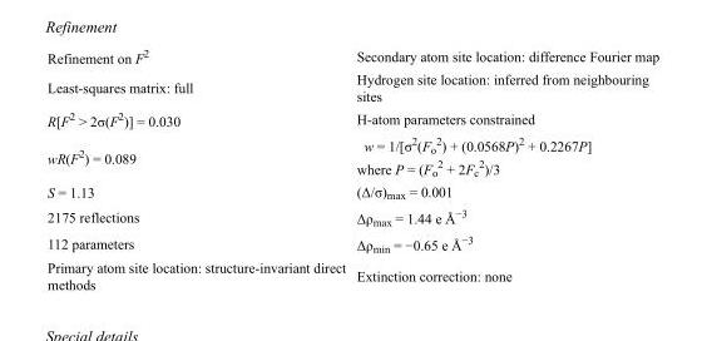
<table><tbody><tr><td>Refinement on F<sup>2</sup></td><td>Secondary atom site location: difference Fourier map</td></tr><tr><td>Least-squares matrix: full</td><td>Hydrogen site location: inferred from neighbouring sites</td></tr><tr><td>R[F<sup>2</sup> &gt; 2σ(F<sup>2</sup>)] = 0.030</td><td>H-atom parameters constrained</td></tr><tr><td>wR(F<sup>2</sup>) = 0.089</td><td>w = 1/[σ<sup>2</sup>(F<sub>o</sub> <sup>2</sup>) + (0.0568P)<sup>2</sup> + 0.2267P] where P = (F<sub>o</sub> <sup>2</sup> + 2F<sub>c</sub> <sup>2</sup>)/3</td></tr><tr><td>S = 1.13</td><td>(Δ/σ)<sub>max</sub> = 0.001</td></tr><tr><td>2175 reflections</td><td>Δρ<sub>max</sub> = 1.44 e Å<sup>−3</sup></td></tr><tr><td>112 parameters</td><td>Δρ<sub>min</sub> = −0.65 e Å<sup>−3</sup></td></tr><tr><td>Primary atom site location: structure-invariant direct methods</td><td>Extinction correction: none</td></tr></tbody></table>